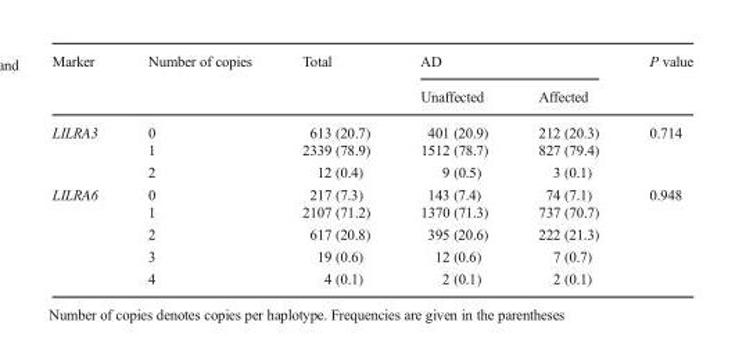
<table><thead><tr><td rowspan="2">Marker</td><td rowspan="2">Number of copies</td><td rowspan="2">Total</td><td colspan="2">AD</td><td rowspan="2">P value</td></tr><tr><td>Unaffected</td><td>Affected</td></tr></thead><tbody><tr><td rowspan="3">LILRA3</td><td>0</td><td>613 (20.7)</td><td>401 (20.9)</td><td>212 (20.3)</td><td rowspan="3">0.714</td></tr><tr><td>1</td><td>2339 (78.9)</td><td>1512 (78.7)</td><td>827 (79.4)</td></tr><tr><td>2</td><td>12 (0.4)</td><td>9 (0.5)</td><td>3 (0.1)</td></tr><tr><td rowspan="5">LILRA6</td><td>0</td><td>217 (7.3)</td><td>143 (7.4)</td><td>74 (7.1)</td><td rowspan="5">0.948</td></tr><tr><td>1</td><td>2107 (71.2)</td><td>1370 (71.3)</td><td>737 (70.7)</td></tr><tr><td>2</td><td>617 (20.8)</td><td>395 (20.6)</td><td>222 (21.3)</td></tr><tr><td>3</td><td>19 (0.6)</td><td>12 (0.6)</td><td>7 (0.7)</td></tr><tr><td>4</td><td>4 (0.1)</td><td>2 (0.1)</td><td>2 (0.1)</td></tr></tbody></table>